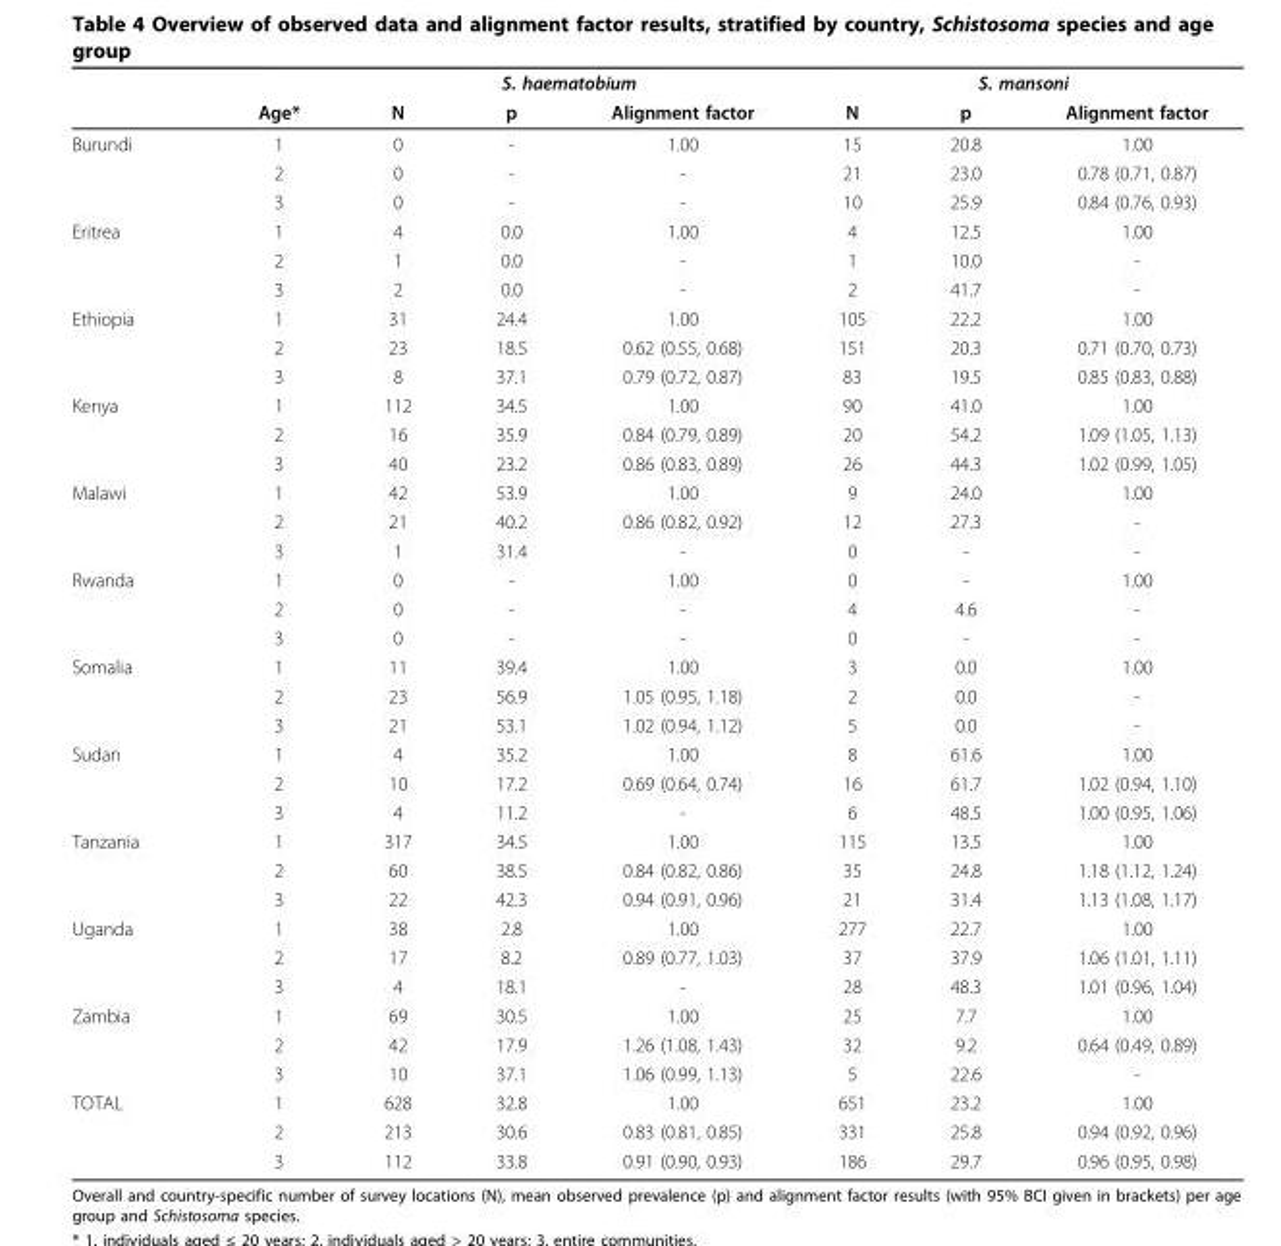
<table><thead><tr><td rowspan="2"></td><td rowspan="2">Age*</td><td colspan="3">S. haematobium</td><td colspan="3">S. mansoni</td></tr><tr><td>N</td><td>p</td><td>Alignment factor</td><td>N</td><td>p</td><td>Alignment factor</td></tr></thead><tbody><tr><td rowspan="3">Burundi</td><td>1</td><td>0</td><td>-</td><td>1.00</td><td>15</td><td>20.8</td><td>1.00</td></tr><tr><td>2</td><td>0</td><td>-</td><td>-</td><td>21</td><td>23.0</td><td>0.78 (0.71, 0.87)</td></tr><tr><td>3</td><td>0</td><td>-</td><td>-</td><td>10</td><td>25.9</td><td>0.84 (0.76, 0.93)</td></tr><tr><td rowspan="3">Eritrea</td><td>1</td><td>4</td><td>0.0</td><td>1.00</td><td>4</td><td>12.5</td><td>1.00</td></tr><tr><td>2</td><td>1</td><td>0.0</td><td>-</td><td>1</td><td>10.0</td><td>-</td></tr><tr><td>3</td><td>2</td><td>0.0</td><td>-</td><td>2</td><td>41.7</td><td>-</td></tr><tr><td rowspan="3">Ethiopia</td><td>1</td><td>31</td><td>24.4</td><td>1.00</td><td>105</td><td>22.2</td><td>1.00</td></tr><tr><td>2</td><td>23</td><td>18.5</td><td>0.62 (0.55, 0.68)</td><td>151</td><td>20.3</td><td>0.71 (0.70, 0.73)</td></tr><tr><td>3</td><td>8</td><td>37.1</td><td>0.79 (0.72, 0.87)</td><td>83</td><td>19.5</td><td>0.85 (0.83, 0.88)</td></tr><tr><td rowspan="3">Kenya</td><td>1</td><td>112</td><td>34.5</td><td>1.00</td><td>90</td><td>41.0</td><td>1.00</td></tr><tr><td>2</td><td>16</td><td>35.9</td><td>0.84 (0.79, 0.89)</td><td>20</td><td>54.2</td><td>1.09 (1.05, 1.13)</td></tr><tr><td>3</td><td>40</td><td>23.2</td><td>0.86 (0.83, 0.89)</td><td>26</td><td>44.3</td><td>1.02 (0.99, 1.05)</td></tr><tr><td rowspan="3">Malawi</td><td>1</td><td>42</td><td>53.9</td><td>1.00</td><td>9</td><td>24.0</td><td>1.00</td></tr><tr><td>2</td><td>21</td><td>40.2</td><td>0.86 (0.82, 0.92)</td><td>12</td><td>27.3</td><td>-</td></tr><tr><td>3</td><td>1</td><td>31.4</td><td>-</td><td>0</td><td>-</td><td>-</td></tr><tr><td rowspan="3">Rwanda</td><td>1</td><td>0</td><td>-</td><td>1.00</td><td>0</td><td>-</td><td>1.00</td></tr><tr><td>2</td><td>0</td><td>-</td><td>-</td><td>4</td><td>4.6</td><td>-</td></tr><tr><td>3</td><td>0</td><td>-</td><td>-</td><td>0</td><td>-</td><td>-</td></tr><tr><td rowspan="3">Somalia</td><td>1</td><td>11</td><td>39.4</td><td>1.00</td><td>3</td><td>0.0</td><td>1.00</td></tr><tr><td>2</td><td>23</td><td>56.9</td><td>1.05 (0.95, 1.18)</td><td>2</td><td>0.0</td><td>-</td></tr><tr><td>3</td><td>21</td><td>53.1</td><td>1.02 (0.94, 1.12)</td><td>5</td><td>0.0</td><td>-</td></tr><tr><td rowspan="3">Sudan</td><td>1</td><td>4</td><td>35.2</td><td>1.00</td><td>8</td><td>61.6</td><td>1.00</td></tr><tr><td>2</td><td>10</td><td>17.2</td><td>0.69 (0.64, 0.74)</td><td>16</td><td>61.7</td><td>1.02 (0.94, 1.10)</td></tr><tr><td>3</td><td>4</td><td>11.2</td><td>-</td><td>6</td><td>48.5</td><td>1.00 (0.95, 1.06)</td></tr><tr><td rowspan="3">Tanzania</td><td>1</td><td>317</td><td>34.5</td><td>1.00</td><td>115</td><td>13.5</td><td>1.00</td></tr><tr><td>2</td><td>60</td><td>38.5</td><td>0.84 (0.82, 0.86)</td><td>35</td><td>24.8</td><td>1.18 (1.12, 1.24)</td></tr><tr><td>3</td><td>22</td><td>42.3</td><td>0.94 (0.91, 0.96)</td><td>21</td><td>31.4</td><td>1.13 (1.08, 1.17)</td></tr><tr><td rowspan="3">Uganda</td><td>1</td><td>38</td><td>2.8</td><td>1.00</td><td>277</td><td>22.7</td><td>1.00</td></tr><tr><td>2</td><td>17</td><td>8.2</td><td>0.89 (0.77, 1.03)</td><td>37</td><td>37.9</td><td>1.06 (1.01, 1.11)</td></tr><tr><td>3</td><td>4</td><td>18.1</td><td>-</td><td>28</td><td>48.3</td><td>1.01 (0.96, 1.04)</td></tr><tr><td rowspan="3">Zambia</td><td>1</td><td>69</td><td>30.5</td><td>1.00</td><td>25</td><td>7.7</td><td>1.00</td></tr><tr><td>2</td><td>42</td><td>17.9</td><td>1.26 (1.08, 1.43)</td><td>32</td><td>9.2</td><td>0.64 (0.49, 0.89)</td></tr><tr><td>3</td><td>10</td><td>37.1</td><td>1.06 (0.99, 1.13)</td><td>5</td><td>22.6</td><td>-</td></tr><tr><td rowspan="3">TOTAL</td><td>1</td><td>628</td><td>32.8</td><td>1.00</td><td>651</td><td>23.2</td><td>1.00</td></tr><tr><td>2</td><td>213</td><td>30.6</td><td>0.83 (0.81, 0.85)</td><td>331</td><td>25.8</td><td>0.94 (0.92, 0.96)</td></tr><tr><td>3</td><td>112</td><td>33.8</td><td>0.91 (0.90, 0.93)</td><td>186</td><td>29.7</td><td>0.96 (0.95, 0.98)</td></tr></tbody></table>